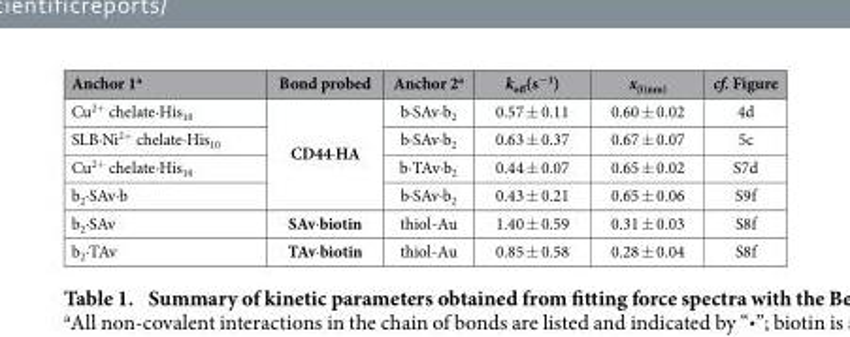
<table><thead><tr><td>Anchor 1<sup>a</sup></td><td>Bond probed</td><td>Anchor 2<sup>a</sup></td><td>k<sub>off</sub>(s<sup>−1</sup>)</td><td>x<sub>β(nm)</sub></td><td>cf. Figure</td></tr></thead><tbody><tr><td>Cu<sup>2+</sup> chelate·His<sub>10</sub></td><td rowspan="4">CD44·HA</td><td>b·SAv·b<sub>2</sub></td><td>0.57 ± 0.11</td><td>0.60 ± 0.02</td><td>4d</td></tr><tr><td>SLB·Ni<sup>2+</sup> chelate·His<sub>10</sub></td><td>b·SAv·b<sub>2</sub></td><td>0.63 ± 0.37</td><td>0.67 ± 0.07</td><td>5c</td></tr><tr><td>Cu<sup>2+</sup> chelate·His<sub>10</sub></td><td>b·TAv·b<sub>2</sub></td><td>0.44 ± 0.07</td><td>0.65 ± 0.02</td><td>S7d</td></tr><tr><td>b<sub>2</sub>·SAv·b</td><td>b·SAv·b<sub>2</sub></td><td>0.43 ± 0.21</td><td>0.65 ± 0.06</td><td>S9f</td></tr><tr><td>b<sub>2</sub>·SAv</td><td>SAv·biotin</td><td>thiol-Au</td><td>1.40 ± 0.59</td><td>0.31 ± 0.03</td><td>S8f</td></tr><tr><td>b<sub>2</sub>·TAv</td><td>TAv·biotin</td><td>thiol-Au</td><td>0.85 ± 0.58</td><td>0.28 ± 0.04</td><td>S8f</td></tr></tbody></table>